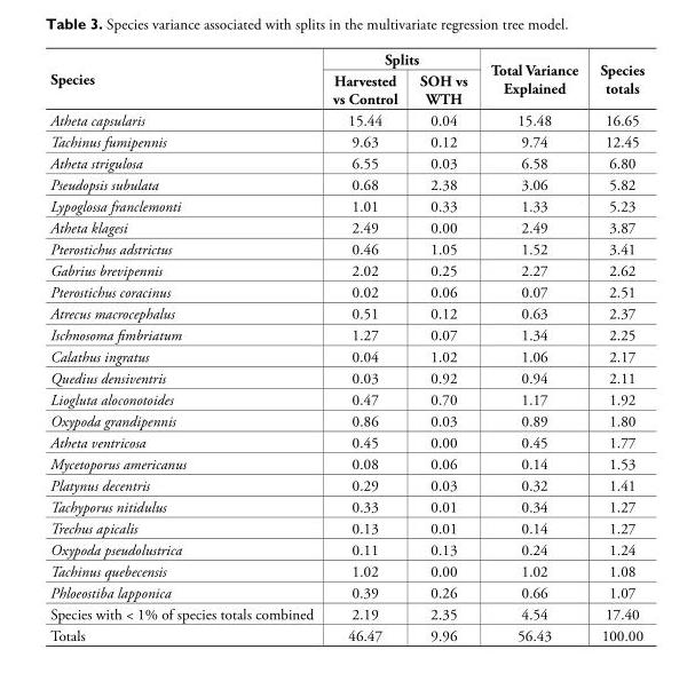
<table><thead><tr><td rowspan="2">Species</td><td colspan="2">Splits</td><td rowspan="2">Total Variance Explained</td><td rowspan="2">Species totals</td></tr><tr><td>Harvested vs Control</td><td>SOH vs WTH</td></tr></thead><tbody><tr><td>Atheta capsularis</td><td>15.44</td><td>0.04</td><td>15.48</td><td>16.65</td></tr><tr><td>Tachinus fumipennis</td><td>9.63</td><td>0.12</td><td>9.74</td><td>12.45</td></tr><tr><td>Atheta strigulosa</td><td>6.55</td><td>0.03</td><td>6.58</td><td>6.80</td></tr><tr><td>Pseudopsis subulata</td><td>0.68</td><td>2.38</td><td>3.06</td><td>5.82</td></tr><tr><td>Lypoglossa franclemonti</td><td>1.01</td><td>0.33</td><td>1.33</td><td>5.23</td></tr><tr><td>Atheta klagesi</td><td>2.49</td><td>0.00</td><td>2.49</td><td>3.87</td></tr><tr><td>Pterostichus adstrictus</td><td>0.46</td><td>1.05</td><td>1.52</td><td>3.41</td></tr><tr><td>Gabrius brevipennis</td><td>2.02</td><td>0.25</td><td>2.27</td><td>2.62</td></tr><tr><td>Pterostichus coracinus</td><td>0.02</td><td>0.06</td><td>0.07</td><td>2.51</td></tr><tr><td>Atrecus macrocephalus</td><td>0.51</td><td>0.12</td><td>0.63</td><td>2.37</td></tr><tr><td>Ischnosoma fimbriatum</td><td>1.27</td><td>0.07</td><td>1.34</td><td>2.25</td></tr><tr><td>Calathus ingratus</td><td>0.04</td><td>1.02</td><td>1.06</td><td>2.17</td></tr><tr><td>Quedius densiventris</td><td>0.03</td><td>0.92</td><td>0.94</td><td>2.11</td></tr><tr><td>Liogluta aloconotoides</td><td>0.47</td><td>0.70</td><td>1.17</td><td>1.92</td></tr><tr><td>Oxypoda grandipennis</td><td>0.86</td><td>0.03</td><td>0.89</td><td>1.80</td></tr><tr><td>Atheta ventricosa</td><td>0.45</td><td>0.00</td><td>0.45</td><td>1.77</td></tr><tr><td>Mycetoporus americanus</td><td>0.08</td><td>0.06</td><td>0.14</td><td>1.53</td></tr><tr><td>Platynus decentris</td><td>0.29</td><td>0.03</td><td>0.32</td><td>1.41</td></tr><tr><td>Tachyporus nitidulus</td><td>0.33</td><td>0.01</td><td>0.34</td><td>1.27</td></tr><tr><td>Trechus apicalis</td><td>0.13</td><td>0.01</td><td>0.14</td><td>1.27</td></tr><tr><td>Oxypoda pseudolustrica</td><td>0.11</td><td>0.13</td><td>0.24</td><td>1.24</td></tr><tr><td>Tachinus quebecensis</td><td>1.02</td><td>0.00</td><td>1.02</td><td>1.08</td></tr><tr><td>Phloeostiba lapponica</td><td>0.39</td><td>0.26</td><td>0.66</td><td>1.07</td></tr><tr><td>Species with &lt; 1% of species totals combined</td><td>2.19</td><td>2.35</td><td>4.54</td><td>17.40</td></tr><tr><td>Totals</td><td>46.47</td><td>9.96</td><td>56.43</td><td>100.00</td></tr></tbody></table>